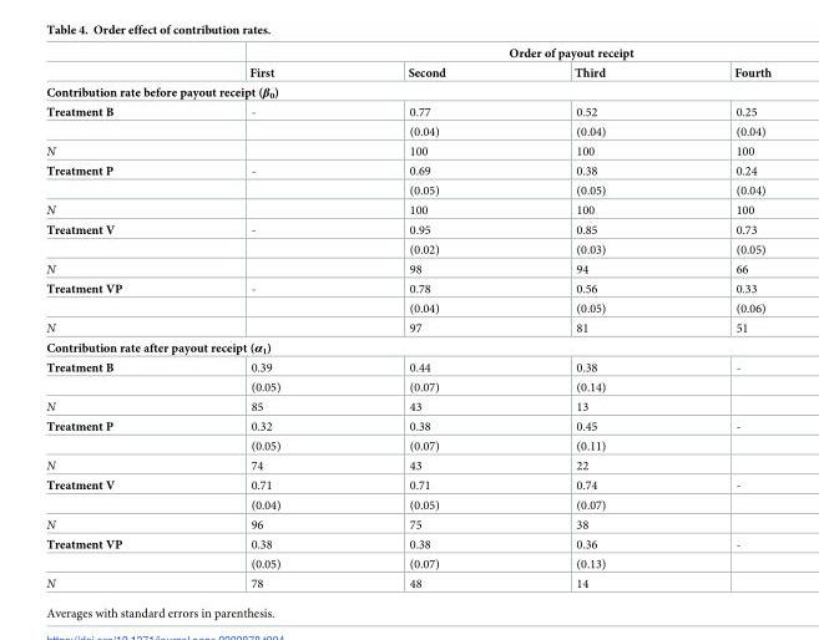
<table><thead><tr><td rowspan="2"></td><td colspan="4">Order of payout receipt</td></tr><tr><td>First</td><td>Second</td><td>Third</td><td>Fourth</td></tr></thead><tbody><tr><td colspan="5">Contribution rate before payout receipt (β<sub>0</sub>)</td></tr><tr><td rowspan="2">Treatment B</td><td>-</td><td>0.77</td><td>0.52</td><td>0.25</td></tr><tr><td></td><td>(0.04)</td><td>(0.04)</td><td>(0.04)</td></tr><tr><td>N</td><td></td><td>100</td><td>100</td><td>100</td></tr><tr><td rowspan="2">Treatment P</td><td>-</td><td>0.69</td><td>0.38</td><td>0.24</td></tr><tr><td></td><td>(0.05)</td><td>(0.05)</td><td>(0.04)</td></tr><tr><td>N</td><td></td><td>100</td><td>100</td><td>100</td></tr><tr><td rowspan="2">Treatment V</td><td>-</td><td>0.95</td><td>0.85</td><td>0.73</td></tr><tr><td></td><td>(0.02)</td><td>(0.03)</td><td>(0.05)</td></tr><tr><td>N</td><td></td><td>98</td><td>94</td><td>66</td></tr><tr><td rowspan="2">Treatment VP</td><td>-</td><td>0.78</td><td>0.56</td><td>0.33</td></tr><tr><td></td><td>(0.04)</td><td>(0.05)</td><td>(0.06)</td></tr><tr><td>N</td><td></td><td>97</td><td>81</td><td>51</td></tr><tr><td colspan="5">Contribution rate after payout receipt (α<sub>1</sub>)</td></tr><tr><td rowspan="2">Treatment B</td><td>0.39</td><td>0.44</td><td>0.38</td><td>-</td></tr><tr><td>(0.05)</td><td>(0.07)</td><td>(0.14)</td><td></td></tr><tr><td>N</td><td>85</td><td>43</td><td>13</td><td></td></tr><tr><td rowspan="2">Treatment P</td><td>0.32</td><td>0.38</td><td>0.45</td><td>-</td></tr><tr><td>(0.05)</td><td>(0.07)</td><td>(0.11)</td><td></td></tr><tr><td>N</td><td>74</td><td>43</td><td>22</td><td></td></tr><tr><td rowspan="2">Treatment V</td><td>0.71</td><td>0.71</td><td>0.74</td><td>-</td></tr><tr><td>(0.04)</td><td>(0.05)</td><td>(0.07)</td><td></td></tr><tr><td>N</td><td>96</td><td>75</td><td>38</td><td></td></tr><tr><td rowspan="2">Treatment VP</td><td>0.38</td><td>0.38</td><td>0.36</td><td>-</td></tr><tr><td>(0.05)</td><td>(0.07)</td><td>(0.13)</td><td></td></tr><tr><td>N</td><td>78</td><td>48</td><td>14</td><td></td></tr></tbody></table>